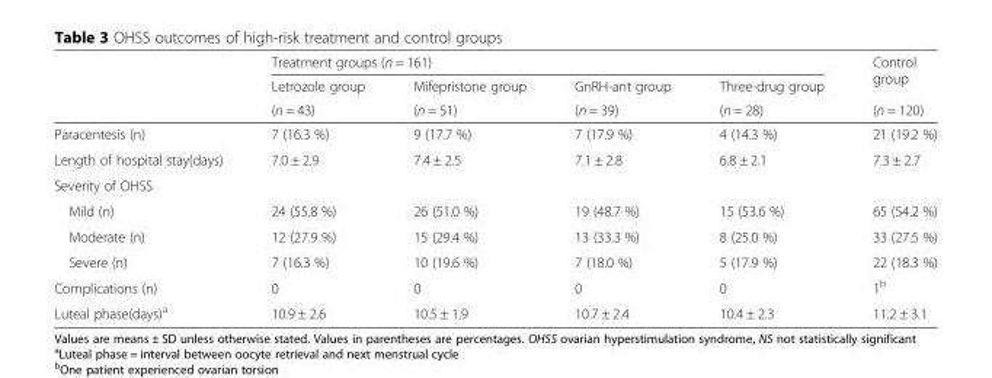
<table><thead><tr><td rowspan="3"></td><td colspan="4">Treatment groups (n = 161)</td><td rowspan="3">Control group (n = 120)</td></tr><tr><td rowspan="2">Letrozole group (n = 43)</td><td rowspan="2">Mifepristone group (n = 51)</td><td rowspan="2">GnRH-ant group (n = 39)</td><td rowspan="2">Three-drug group (n = 28)</td></tr><tr></tr></thead><tbody><tr><td>Paracentesis (n)</td><td>7 (16.3 %)</td><td>9 (17.7 %)</td><td>7 (17.9 %)</td><td>4 (14.3 %)</td><td>21 (19.2 %)</td></tr><tr><td>Length of hospital stay(days)</td><td>7.0 ± 2.9</td><td>7.4 ± 2.5</td><td>7.1 ± 2.8</td><td>6.8 ± 2.1</td><td>7.3 ± 2.7</td></tr><tr><td colspan="6">Severity of OHSS</td></tr><tr><td>Mild (n)</td><td>24 (55.8 %)</td><td>26 (51.0 %)</td><td>19 (48.7 %)</td><td>15 (53.6 %)</td><td>65 (54.2 %)</td></tr><tr><td>Moderate (n)</td><td>12 (27.9 %)</td><td>15 (29.4 %)</td><td>13 (33.3 %)</td><td>8 (25.0 %)</td><td>33 (27.5 %)</td></tr><tr><td>Severe (n)</td><td>7 (16.3 %)</td><td>10 (19.6 %)</td><td>7 (18.0 %)</td><td>5 (17.9 %)</td><td>22 (18.3 %)</td></tr><tr><td>Complications (n)</td><td>0</td><td>0</td><td>0</td><td>0</td><td>1<sup>b</sup></td></tr><tr><td>Luteal phase(days)<sup>a</sup></td><td>10.9 ± 2.6</td><td>10.5 ± 1.9</td><td>10.7 ± 2.4</td><td>10.4 ± 2.3</td><td>11.2 ± 3.1</td></tr></tbody></table>